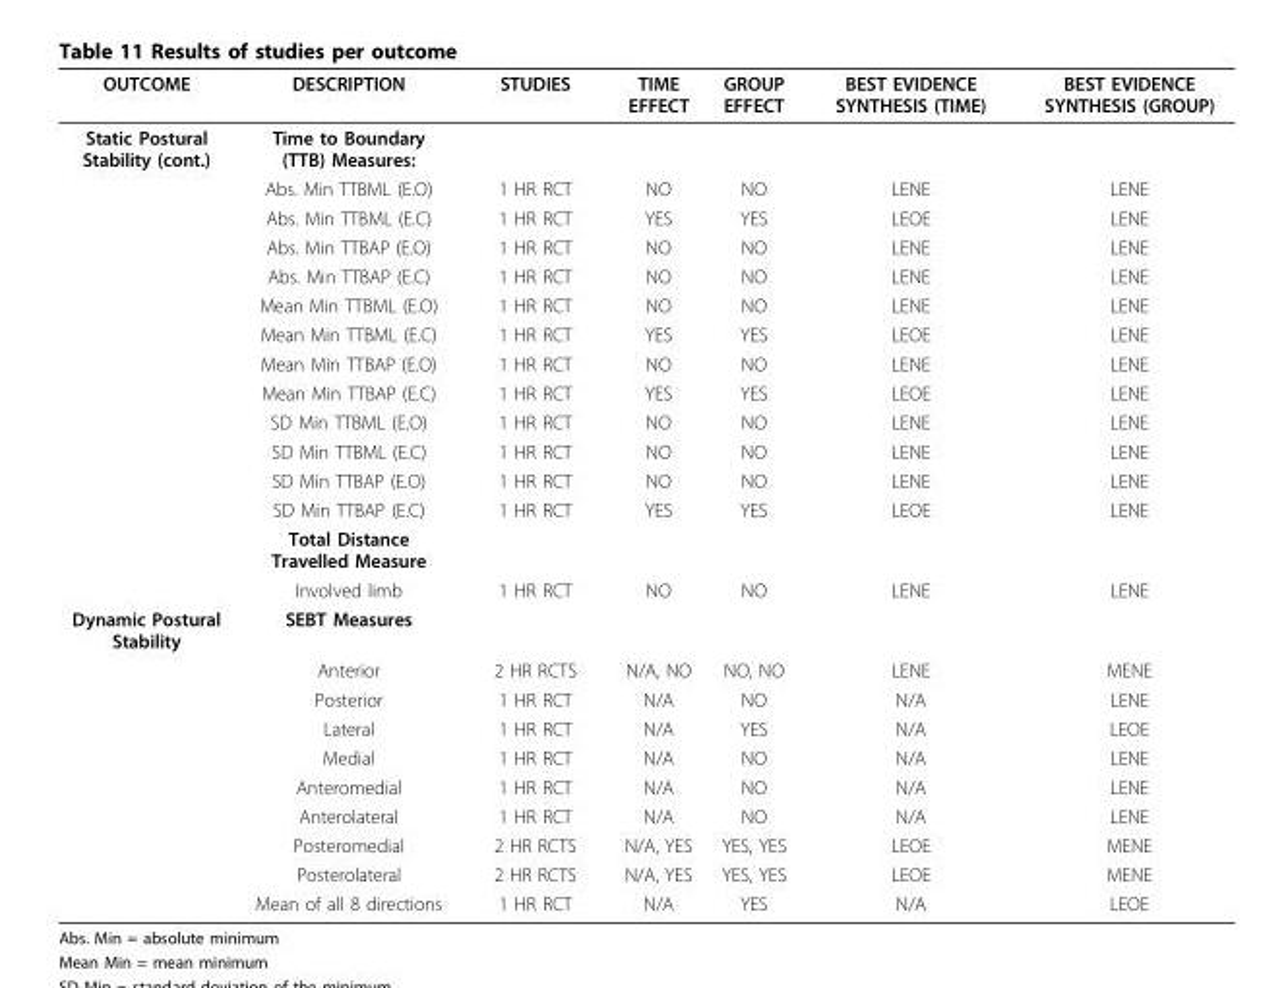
<table><thead><tr><td>OUTCOME</td><td>DESCRIPTION</td><td>STUDIES</td><td>TIME EFFECT</td><td>GROUP EFFECT</td><td>BEST EVIDENCE SYNTHESIS (TIME)</td><td>BEST EVIDENCE SYNTHESIS (GROUP)</td></tr></thead><tbody><tr><td rowspan="15">Static Postural Stability (cont.)</td><td>Time to Boundary (TTB) Measures:</td><td></td><td></td><td></td><td></td><td></td></tr><tr><td>Abs. Min TTBML (E.O)</td><td>1 HR RCT</td><td>NO</td><td>NO</td><td>LENE</td><td>LENE</td></tr><tr><td>Abs. Min TTBML (E.C)</td><td>1 HR RCT</td><td>YES</td><td>YES</td><td>LEOE</td><td>LENE</td></tr><tr><td>Abs. Min TTBAP (E.O)</td><td>1 HR RCT</td><td>NO</td><td>NO</td><td>LENE</td><td>LENE</td></tr><tr><td>Abs. Min TTBAP (E.C)</td><td>1 HR RCT</td><td>NO</td><td>NO</td><td>LENE</td><td>LENE</td></tr><tr><td>Mean Min TTBML (E.O)</td><td>1 HR RCT</td><td>NO</td><td>NO</td><td>LENE</td><td>LENE</td></tr><tr><td>Mean Min TTBML (E.C)</td><td>1 HR RCT</td><td>YES</td><td>YES</td><td>LEOE</td><td>LENE</td></tr><tr><td>Mean Min TTBAP (E.O)</td><td>1 HR RCT</td><td>NO</td><td>NO</td><td>LENE</td><td>LENE</td></tr><tr><td>Mean Min TTBAP (E.C)</td><td>1 HR RCT</td><td>YES</td><td>YES</td><td>LEOE</td><td>LENE</td></tr><tr><td>SD Min TTBML (E.O)</td><td>1 HR RCT</td><td>NO</td><td>NO</td><td>LENE</td><td>LENE</td></tr><tr><td>SD Min TTBML (E.C)</td><td>1 HR RCT</td><td>NO</td><td>NO</td><td>LENE</td><td>LENE</td></tr><tr><td>SD Min TTBAP (E.O)</td><td>1 HR RCT</td><td>NO</td><td>NO</td><td>LENE</td><td>LENE</td></tr><tr><td>SD Min TTBAP (E.C)</td><td>1 HR RCT</td><td>YES</td><td>YES</td><td>LEOE</td><td>LENE</td></tr><tr><td>Total Distance Travelled Measure</td><td></td><td></td><td></td><td></td><td></td></tr><tr><td>Involved limb</td><td>1 HR RCT</td><td>NO</td><td>NO</td><td>LENE</td><td>LENE</td></tr><tr><td rowspan="10">Dynamic Postural Stability</td><td>SEBT Measures</td><td></td><td></td><td></td><td></td><td></td></tr><tr><td>Anterior</td><td>2 HR RCTS</td><td>N/A, NO</td><td>NO, NO</td><td>LENE</td><td>MENE</td></tr><tr><td>Posterior</td><td>1 HR RCT</td><td>N/A</td><td>NO</td><td>N/A</td><td>LENE</td></tr><tr><td>Lateral</td><td>1 HR RCT</td><td>N/A</td><td>YES</td><td>N/A</td><td>LEOE</td></tr><tr><td>Medial</td><td>1 HR RCT</td><td>N/A</td><td>NO</td><td>N/A</td><td>LENE</td></tr><tr><td>Anteromedial</td><td>1 HR RCT</td><td>N/A</td><td>NO</td><td>N/A</td><td>LENE</td></tr><tr><td>Anterolateral</td><td>1 HR RCT</td><td>N/A</td><td>NO</td><td>N/A</td><td>LENE</td></tr><tr><td>Posteromedial</td><td>2 HR RCTS</td><td>N/A, YES</td><td>YES, YES</td><td>LEOE</td><td>MENE</td></tr><tr><td>Posterolateral</td><td>2 HR RCTS</td><td>N/A, YES</td><td>YES, YES</td><td>LEOE</td><td>MENE</td></tr><tr><td>Mean of all 8 directions</td><td>1 HR RCT</td><td>N/A</td><td>YES</td><td>N/A</td><td>LEOE</td></tr></tbody></table>